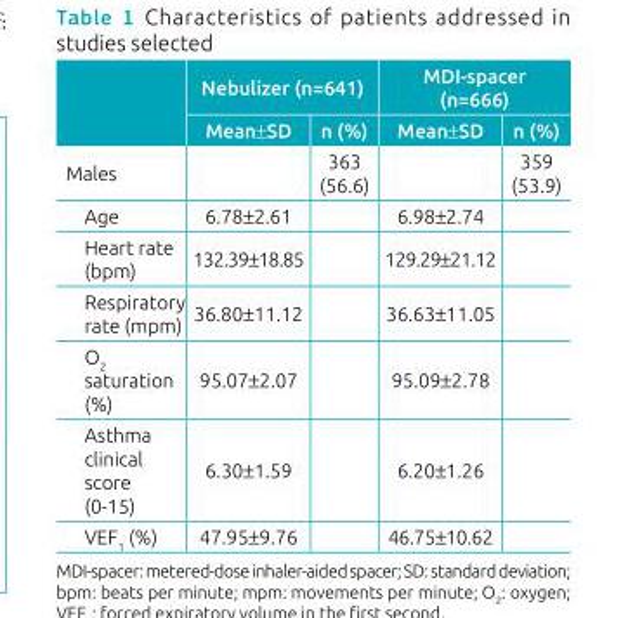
<table><thead><tr><td rowspan="2"></td><td colspan="2">Nebulizer (n=641)</td><td colspan="2">MDI‑spacer (n=666)</td></tr><tr><td>Mean±SD</td><td>n (%)</td><td>Mean±SD</td><td>n (%)</td></tr></thead><tbody><tr><td>Males</td><td></td><td>363 (56.6)</td><td></td><td>359 (53.9)</td></tr><tr><td>Age</td><td>6.78±2.61</td><td></td><td>6.98±2.74</td><td></td></tr><tr><td>Heart rate (bpm)</td><td>132.39±18.85</td><td></td><td>129.29±21.12</td><td></td></tr><tr><td>Respiratory rate (mpm)</td><td>36.80±11.12</td><td></td><td>36.63±11.05</td><td></td></tr><tr><td>O<sub>2</sub> saturation (%)</td><td>95.07±2.07</td><td></td><td>95.09±2.78</td><td></td></tr><tr><td>Asthma clinical score (0‑15)</td><td>6.30±1.59</td><td></td><td>6.20±1.26</td><td></td></tr><tr><td>VEF<sub>1</sub> (%)</td><td>47.95±9.76</td><td></td><td>46.75±10.62</td><td></td></tr></tbody></table>